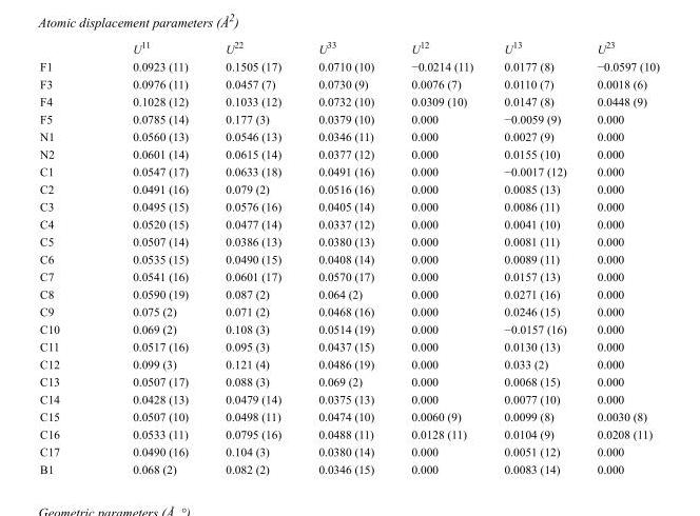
<table><thead><tr><td></td><td>U<sup>11</sup></td><td>U<sup>22</sup></td><td>U<sup>33</sup></td><td>U<sup>12</sup></td><td>U<sup>13</sup></td><td>U<sup>23</sup></td></tr></thead><tbody><tr><td>F1</td><td>0.0923 (11)</td><td>0.1505 (17)</td><td>0.0710 (10)</td><td>−0.0214 (11)</td><td>0.0177 (8)</td><td>−0.0597 (10)</td></tr><tr><td>F3</td><td>0.0976 (11)</td><td>0.0457 (7)</td><td>0.0730 (9)</td><td>0.0076 (7)</td><td>0.0110 (7)</td><td>0.0018 (6)</td></tr><tr><td>F4</td><td>0.1028 (12)</td><td>0.1033 (12)</td><td>0.0732 (10)</td><td>0.0309 (10)</td><td>0.0147 (8)</td><td>0.0448 (9)</td></tr><tr><td>F5</td><td>0.0785 (14)</td><td>0.177 (3)</td><td>0.0379 (10)</td><td>0.000</td><td>−0.0059 (9)</td><td>0.000</td></tr><tr><td>N1</td><td>0.0560 (13)</td><td>0.0546 (13)</td><td>0.0346 (11)</td><td>0.000</td><td>0.0027 (9)</td><td>0.000</td></tr><tr><td>N2</td><td>0.0601 (14)</td><td>0.0615 (14)</td><td>0.0377 (12)</td><td>0.000</td><td>0.0155 (10)</td><td>0.000</td></tr><tr><td>C1</td><td>0.0547 (17)</td><td>0.0633 (18)</td><td>0.0491 (16)</td><td>0.000</td><td>−0.0017 (12)</td><td>0.000</td></tr><tr><td>C2</td><td>0.0491 (16)</td><td>0.079 (2)</td><td>0.0516 (16)</td><td>0.000</td><td>0.0085 (13)</td><td>0.000</td></tr><tr><td>C3</td><td>0.0495 (15)</td><td>0.0576 (16)</td><td>0.0405 (14)</td><td>0.000</td><td>0.0086 (11)</td><td>0.000</td></tr><tr><td>C4</td><td>0.0520 (15)</td><td>0.0477 (14)</td><td>0.0337 (12)</td><td>0.000</td><td>0.0041 (10)</td><td>0.000</td></tr><tr><td>C5</td><td>0.0507 (14)</td><td>0.0386 (13)</td><td>0.0380 (13)</td><td>0.000</td><td>0.0081 (11)</td><td>0.000</td></tr><tr><td>C6</td><td>0.0535 (15)</td><td>0.0490 (15)</td><td>0.0408 (14)</td><td>0.000</td><td>0.0089 (11)</td><td>0.000</td></tr><tr><td>C7</td><td>0.0541 (16)</td><td>0.0601 (17)</td><td>0.0570 (17)</td><td>0.000</td><td>0.0157 (13)</td><td>0.000</td></tr><tr><td>C8</td><td>0.0590 (19)</td><td>0.087 (2)</td><td>0.064 (2)</td><td>0.000</td><td>0.0271 (16)</td><td>0.000</td></tr><tr><td>C9</td><td>0.075 (2)</td><td>0.071 (2)</td><td>0.0468 (16)</td><td>0.000</td><td>0.0246 (15)</td><td>0.000</td></tr><tr><td>C10</td><td>0.069 (2)</td><td>0.108 (3)</td><td>0.0514 (19)</td><td>0.000</td><td>−0.0157 (16)</td><td>0.000</td></tr><tr><td>C11</td><td>0.0517 (16)</td><td>0.095 (3)</td><td>0.0437 (15)</td><td>0.000</td><td>0.0130 (13)</td><td>0.000</td></tr><tr><td>C12</td><td>0.099 (3)</td><td>0.121 (4)</td><td>0.0486 (19)</td><td>0.000</td><td>0.033 (2)</td><td>0.000</td></tr><tr><td>C13</td><td>0.0507 (17)</td><td>0.088 (3)</td><td>0.069 (2)</td><td>0.000</td><td>0.0068 (15)</td><td>0.000</td></tr><tr><td>C14</td><td>0.0428 (13)</td><td>0.0479 (14)</td><td>0.0375 (13)</td><td>0.000</td><td>0.0077 (10)</td><td>0.000</td></tr><tr><td>C15</td><td>0.0507 (10)</td><td>0.0498 (11)</td><td>0.0474 (10)</td><td>0.0060 (9)</td><td>0.0099 (8)</td><td>0.0030 (8)</td></tr><tr><td>C16</td><td>0.0533 (11)</td><td>0.0795 (16)</td><td>0.0488 (11)</td><td>0.0128 (11)</td><td>0.0104 (9)</td><td>0.0208 (11)</td></tr><tr><td>C17</td><td>0.0490 (16)</td><td>0.104 (3)</td><td>0.0380 (14)</td><td>0.000</td><td>0.0051 (12)</td><td>0.000</td></tr><tr><td>B1</td><td>0.068 (2)</td><td>0.082 (2)</td><td>0.0346 (15)</td><td>0.000</td><td>0.0083 (14)</td><td>0.000</td></tr></tbody></table>